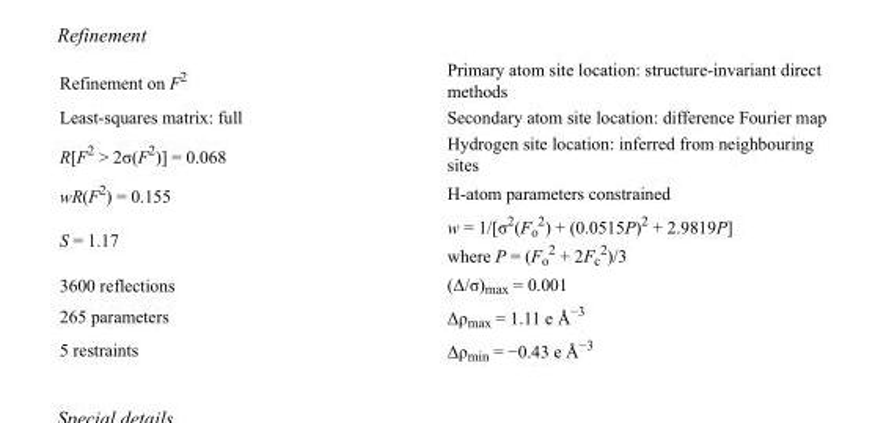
<table><tbody><tr><td>Refinement on F<sup>2</sup></td><td>Primary atom site location: structure-invariant direct methods</td></tr><tr><td>Least-squares matrix: full</td><td>Secondary atom site location: difference Fourier map</td></tr><tr><td>R[F<sup>2</sup> &gt; 2σ(F<sup>2</sup>)] = 0.068</td><td>Hydrogen site location: inferred from neighbouring sites</td></tr><tr><td>wR(F<sup>2</sup>) = 0.155</td><td>H-atom parameters constrained</td></tr><tr><td>S = 1.17</td><td>w = 1/[σ<sup>2</sup>(F<sub>o</sub> <sup>2</sup>) + (0.0515P)<sup>2</sup> + 2.9819P] where P = (F<sub>o</sub> <sup>2</sup> + 2F<sub>c</sub> <sup>2</sup>)/3</td></tr><tr><td>3600 reflections</td><td>(Δ/σ)<sub>max</sub> = 0.001</td></tr><tr><td>265 parameters</td><td>Δρ<sub>max</sub> = 1.11 e Å<sup>−3</sup></td></tr><tr><td>5 restraints</td><td>Δρ<sub>min</sub> = −0.43 e Å<sup>−3</sup></td></tr></tbody></table>